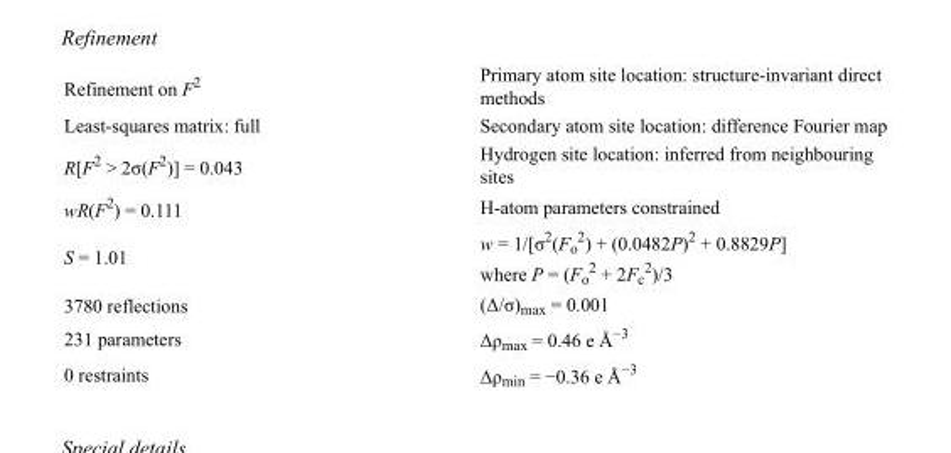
<table><tbody><tr><td>Refinement on F<sup>2</sup></td><td>Primary atom site location: structure-invariant direct methods</td></tr><tr><td>Least-squares matrix: full</td><td>Secondary atom site location: difference Fourier map</td></tr><tr><td>R[F<sup>2</sup> &gt; 2σ(F<sup>2</sup>)] = 0.043</td><td>Hydrogen site location: inferred from neighbouring sites</td></tr><tr><td>wR(F<sup>2</sup>) = 0.111</td><td>H-atom parameters constrained</td></tr><tr><td>S = 1.01</td><td>w = 1/[σ<sup>2</sup>(F<sub>o</sub> <sup>2</sup>) + (0.0482P)<sup>2</sup> + 0.8829P] where P = (F<sub>o</sub> <sup>2</sup> + 2F<sub>c</sub> <sup>2</sup>)/3</td></tr><tr><td>3780 reflections</td><td>(Δ/σ)<sub>max</sub> = 0.001</td></tr><tr><td>231 parameters</td><td>Δρ<sub>max</sub> = 0.46 e Å<sup>−3</sup></td></tr><tr><td>0 restraints</td><td>Δρ<sub>min</sub> = −0.36 e Å<sup>−3</sup></td></tr></tbody></table>